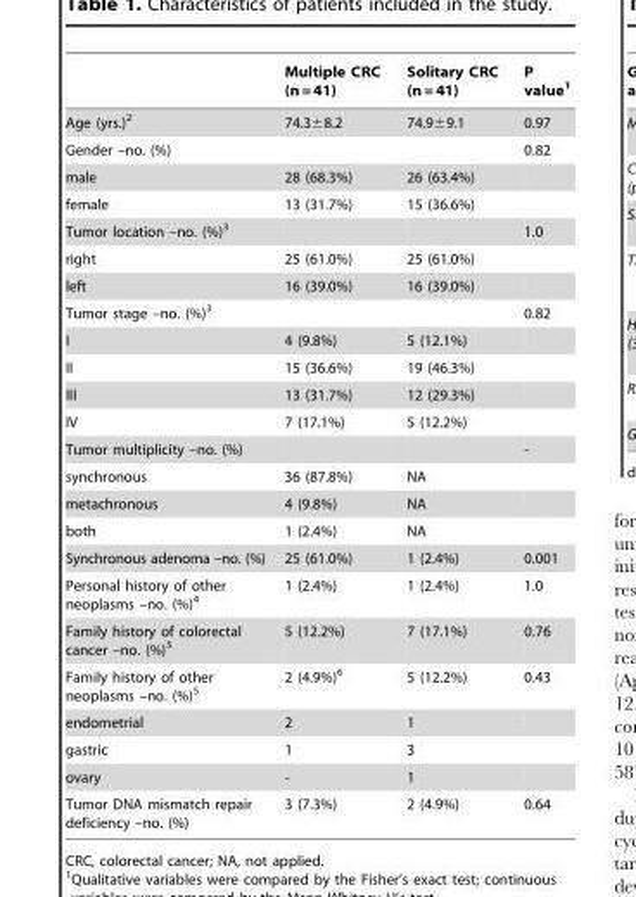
<table><thead><tr><td></td><td>Multiple CRC (n = 41)</td><td>Solitary CRC (n = 41)</td><td>P value<sup>1</sup></td></tr></thead><tbody><tr><td>Age (yrs.)<sup>2</sup></td><td>74.3±8.2</td><td>74.9±9.1</td><td>0.97</td></tr><tr><td>Gender –no. (%)</td><td></td><td></td><td>0.82</td></tr><tr><td>male</td><td>28 (68.3%)</td><td>26 (63.4%)</td><td></td></tr><tr><td>female</td><td>13 (31.7%)</td><td>15 (36.6%)</td><td></td></tr><tr><td>Tumor location –no. (%)<sup>3</sup></td><td></td><td></td><td>1.0</td></tr><tr><td>right</td><td>25 (61.0%)</td><td>25 (61.0%)</td><td></td></tr><tr><td>left</td><td>16 (39.0%)</td><td>16 (39.0%)</td><td></td></tr><tr><td>Tumor stage –no. (%)<sup>3</sup></td><td></td><td></td><td>0.82</td></tr><tr><td>I</td><td>4 (9.8%)</td><td>5 (12.1%)</td><td></td></tr><tr><td>II</td><td>15 (36.6%)</td><td>19 (46.3%)</td><td></td></tr><tr><td>III</td><td>13 (31.7%)</td><td>12 (29.3%)</td><td></td></tr><tr><td>IV</td><td>7 (17.1%)</td><td>5 (12.2%)</td><td></td></tr><tr><td>Tumor multiplicity –no. (%)</td><td></td><td></td><td>-</td></tr><tr><td>synchronous</td><td>36 (87.8%)</td><td>NA</td><td></td></tr><tr><td>metachronous</td><td>4 (9.8%)</td><td>NA</td><td></td></tr><tr><td>both</td><td>1 (2.4%)</td><td>NA</td><td></td></tr><tr><td>Synchronous adenoma –no. (%)</td><td>25 (61.0%)</td><td>1 (2.4%)</td><td>0.001</td></tr><tr><td>Personal history of other neoplasms –no. (%)<sup>4</sup></td><td>1 (2.4%)</td><td>1 (2.4%)</td><td>1.0</td></tr><tr><td>Family history of colorectal cancer –no. (%)<sup>5</sup></td><td>5 (12.2%)</td><td>7 (17.1%)</td><td>0.76</td></tr><tr><td>Family history of other neoplasms –no. (%)<sup>5</sup></td><td>2 (4.9%)<sup>6</sup></td><td>5 (12.2%)</td><td>0.43</td></tr><tr><td>endometrial</td><td>2</td><td>1</td><td></td></tr><tr><td>gastric</td><td>1</td><td>3</td><td></td></tr><tr><td>ovary</td><td>-</td><td>1</td><td></td></tr><tr><td>Tumor DNA mismatch repair deficiency –no. (%)</td><td>3 (7.3%)</td><td>2 (4.9%)</td><td>0.64</td></tr></tbody></table>